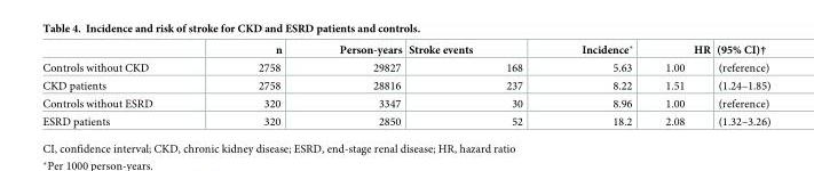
<table><thead><tr><td></td><td>n</td><td>Person-years</td><td>Stroke events</td><td>Incidence*</td><td>HR</td><td>(95% CI)†</td></tr></thead><tbody><tr><td>Controls without CKD</td><td>2758</td><td>29827</td><td>168</td><td>5.63</td><td>1.00</td><td>(reference)</td></tr><tr><td>CKD patients</td><td>2758</td><td>28816</td><td>237</td><td>8.22</td><td>1.51</td><td>(1.24–1.85)</td></tr><tr><td>Controls without ESRD</td><td>320</td><td>3347</td><td>30</td><td>8.96</td><td>1.00</td><td>(reference)</td></tr><tr><td>ESRD patients</td><td>320</td><td>2850</td><td>52</td><td>18.2</td><td>2.08</td><td>(1.32–3.26)</td></tr></tbody></table>